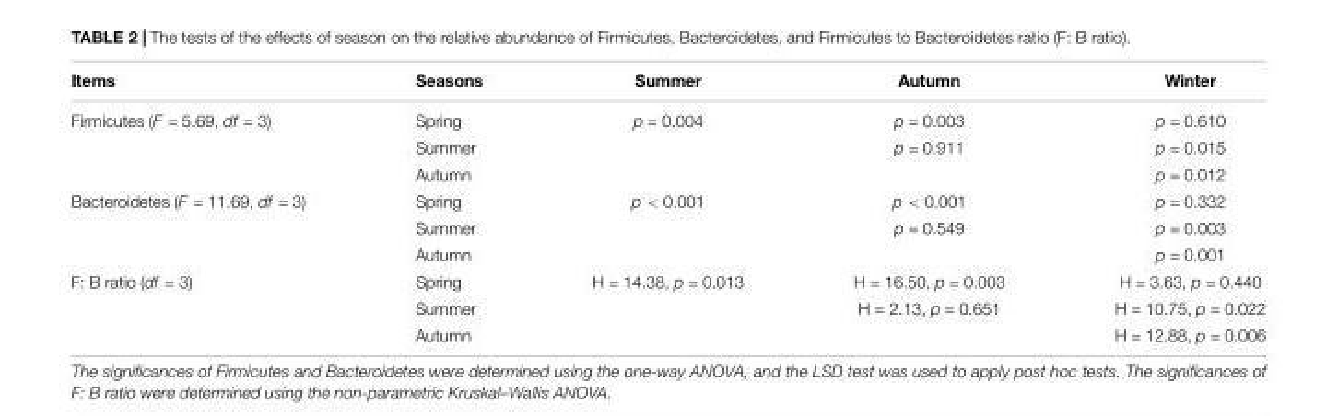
<table><thead><tr><td>Items</td><td>Seasons</td><td>Summer</td><td>Autumn</td><td>Winter</td></tr></thead><tbody><tr><td rowspan="3">Firmicutes (F = 5.69, df = 3)</td><td>Spring</td><td>p = 0.004</td><td>p = 0.003</td><td>p = 0.610</td></tr><tr><td>Summer</td><td></td><td>p = 0.911</td><td>p = 0.015</td></tr><tr><td>Autumn</td><td></td><td></td><td>p = 0.012</td></tr><tr><td rowspan="3">Bacteroidetes (F = 11.69, df = 3)</td><td>Spring</td><td>p &lt; 0.001</td><td>p &lt; 0.001</td><td>p = 0.332</td></tr><tr><td>Summer</td><td></td><td>p = 0.549</td><td>p = 0.003</td></tr><tr><td>Autumn</td><td></td><td></td><td>p = 0.001</td></tr><tr><td rowspan="3">F: B ratio (df = 3)</td><td>Spring</td><td>H = 14.38, p = 0.013</td><td>H = 16.50, p = 0.003</td><td>H = 3.63, p = 0.440</td></tr><tr><td>Summer</td><td></td><td>H = 2.13, p = 0.651</td><td>H = 10.75, p = 0.022</td></tr><tr><td>Autumn</td><td></td><td></td><td>H = 12.88, p = 0.006</td></tr></tbody></table>